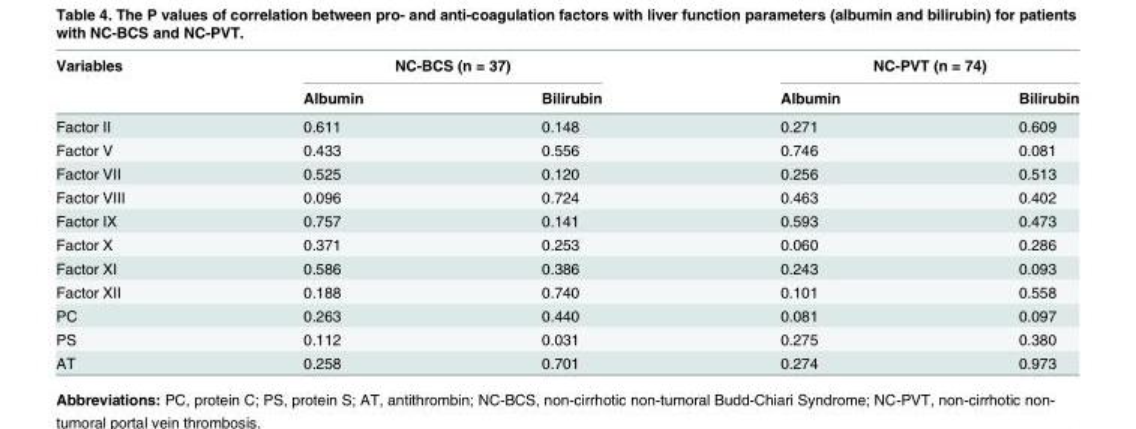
<table><thead><tr><td rowspan="2">Variables</td><td colspan="2">NC-BCS (n = 37)</td><td colspan="2">NC-PVT (n = 74)</td></tr><tr><td>Albumin</td><td>Bilirubin</td><td>Albumin</td><td>Bilirubin</td></tr></thead><tbody><tr><td>Factor II</td><td>0.611</td><td>0.148</td><td>0.271</td><td>0.609</td></tr><tr><td>Factor V</td><td>0.433</td><td>0.556</td><td>0.746</td><td>0.081</td></tr><tr><td>Factor VII</td><td>0.525</td><td>0.120</td><td>0.256</td><td>0.513</td></tr><tr><td>Factor VIII</td><td>0.096</td><td>0.724</td><td>0.463</td><td>0.402</td></tr><tr><td>Factor IX</td><td>0.757</td><td>0.141</td><td>0.593</td><td>0.473</td></tr><tr><td>Factor X</td><td>0.371</td><td>0.253</td><td>0.060</td><td>0.286</td></tr><tr><td>Factor XI</td><td>0.586</td><td>0.386</td><td>0.243</td><td>0.093</td></tr><tr><td>Factor XII</td><td>0.188</td><td>0.740</td><td>0.101</td><td>0.558</td></tr><tr><td>PC</td><td>0.263</td><td>0.440</td><td>0.081</td><td>0.097</td></tr><tr><td>PS</td><td>0.112</td><td>0.031</td><td>0.275</td><td>0.380</td></tr><tr><td>AT</td><td>0.258</td><td>0.701</td><td>0.274</td><td>0.973</td></tr></tbody></table>